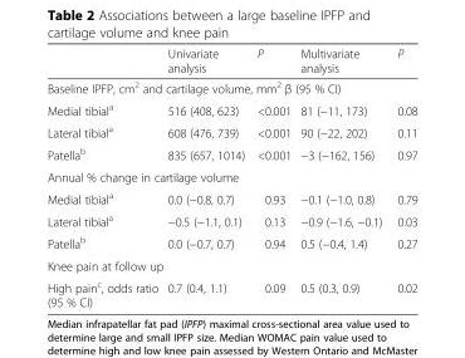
<table><thead><tr><td></td><td>Univariate analysis</td><td>P</td><td>Multivariate analysis</td><td>P</td></tr></thead><tbody><tr><td colspan="5">Baseline IPFP, cm<sup>2</sup> and cartilage volume, mm<sup>2</sup> β (95 % CI)</td></tr><tr><td>Medial tibial<sup>a</sup></td><td>516 (408, 623)</td><td>&lt;0.001</td><td>81 (−11, 173)</td><td>0.08</td></tr><tr><td>Lateral tibial<sup>a</sup></td><td>608 (476, 739)</td><td>&lt;0.001</td><td>90 (−22, 202)</td><td>0.11</td></tr><tr><td>Patella<sup>b</sup></td><td>835 (657, 1014)</td><td>&lt;0.001</td><td>−3 (−162, 156)</td><td>0.97</td></tr><tr><td colspan="5">Annual % change in cartilage volume</td></tr><tr><td>Medial tibial<sup>a</sup></td><td>0.0 (−0.8, 0.7)</td><td>0.93</td><td>−0.1 (−1.0, 0.8)</td><td>0.79</td></tr><tr><td>Lateral tibial<sup>a</sup></td><td>−0.5 (−1.1, 0.1)</td><td>0.13</td><td>−0.9 (−1.6, −0.1)</td><td>0.03</td></tr><tr><td>Patella<sup>b</sup></td><td>0.0 (−0.7, 0.7)</td><td>0.94</td><td>0.5 (−0.4, 1.4)</td><td>0.27</td></tr><tr><td colspan="5">Knee pain at follow up</td></tr><tr><td>High pain<sup>c</sup>, odds ratio (95 % CI)</td><td>0.7 (0.4, 1.1)</td><td>0.09</td><td>0.5 (0.3, 0.9)</td><td>0.02</td></tr></tbody></table>